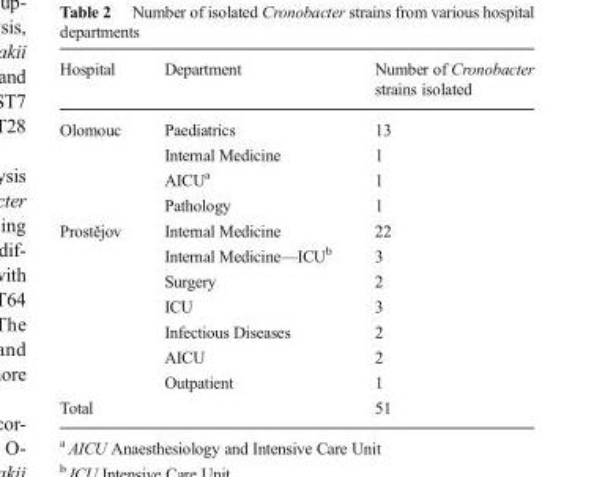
<table><thead><tr><td>Hospital</td><td>Department</td><td>Number of Cronobacter strains isolated</td></tr></thead><tbody><tr><td rowspan="4">Olomouc</td><td>Paediatrics</td><td>13</td></tr><tr><td>Internal Medicine</td><td>1</td></tr><tr><td>AICU<sup>a</sup></td><td>1</td></tr><tr><td>Pathology</td><td>1</td></tr><tr><td rowspan="7">Prostějov</td><td>Internal Medicine</td><td>22</td></tr><tr><td>Internal Medicine—ICU<sup>b</sup></td><td>3</td></tr><tr><td>Surgery</td><td>2</td></tr><tr><td>ICU</td><td>3</td></tr><tr><td>Infectious Diseases</td><td>2</td></tr><tr><td>AICU</td><td>2</td></tr><tr><td>Outpatient</td><td>1</td></tr><tr><td>Total</td><td></td><td>51</td></tr></tbody></table>